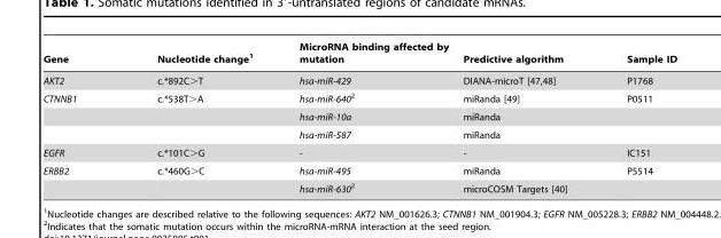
<table><thead><tr><td>Gene</td><td>Nucleotide change<sup>1</sup></td><td>MicroRNA binding affected by mutation</td><td>Predictive algorithm</td><td>Sample ID</td></tr></thead><tbody><tr><td>AKT2</td><td>c.*892C&gt;T</td><td>hsa-miR-429</td><td>DIANA-microT [47,48]</td><td>P1768</td></tr><tr><td rowspan="3">CTNNB1</td><td>c.*538T&gt;A</td><td>hsa-miR-6402</td><td>miRanda [49]</td><td>P0511</td></tr><tr><td></td><td>hsa-miR-10a</td><td>miRanda</td><td></td></tr><tr><td></td><td>hsa-miR-587</td><td>miRanda</td><td></td></tr><tr><td>EGFR</td><td>c.*101C&gt;G</td><td>-</td><td>-</td><td>IC151</td></tr><tr><td rowspan="2">ERBB2</td><td>c.*460G&gt;C</td><td>hsa-miR-495</td><td>miRanda</td><td>P5514</td></tr><tr><td></td><td>hsa-miR-6302</td><td>microCOSM Targets [40]</td><td></td></tr></tbody></table>